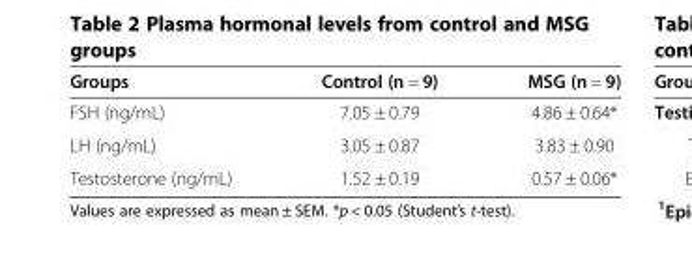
<table><thead><tr><td>Groups</td><td>Control (n = 9)</td><td>MSG (n = 9)</td></tr></thead><tbody><tr><td>FSH (ng/mL)</td><td>7.05 ± 0.79</td><td>4.86 ± 0.64*</td></tr><tr><td>LH (ng/mL)</td><td>3.05 ± 0.87</td><td>3.83 ± 0.90</td></tr><tr><td>Testosterone (ng/mL)</td><td>1.52 ± 0.19</td><td>0.57 ± 0.06*</td></tr></tbody></table>